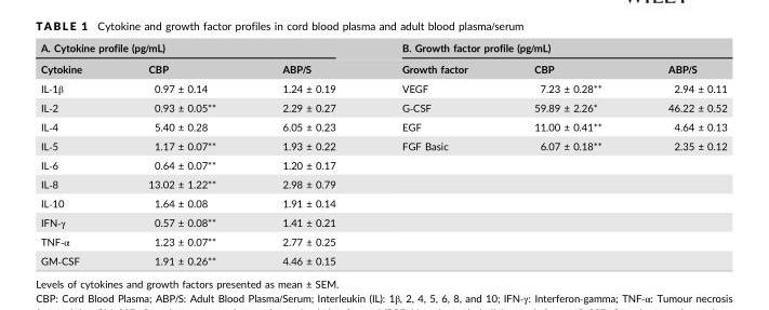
<table><thead><tr><td colspan="3">A. Cytokine profile (pg/mL)</td><td colspan="3">B. Growth factor profile (pg/mL)</td></tr><tr><td>Cytokine</td><td>CBP</td><td>ABP/S</td><td>Growth factor</td><td>CBP</td><td>ABP/S</td></tr></thead><tbody><tr><td>IL‐1β</td><td>0.97 ± 0.14</td><td>1.24 ± 0.19</td><td>VEGF</td><td>7.23 ± 0.28**</td><td>2.94 ± 0.11</td></tr><tr><td>IL‐2</td><td>0.93 ± 0.05**</td><td>2.29 ± 0.27</td><td>G‐CSF</td><td>59.89 ± 2.26*</td><td>46.22 ± 0.52</td></tr><tr><td>IL‐4</td><td>5.40 ± 0.28</td><td>6.05 ± 0.23</td><td>EGF</td><td>11.00 ± 0.41**</td><td>4.64 ± 0.13</td></tr><tr><td>IL‐5</td><td>1.17 ± 0.07**</td><td>1.93 ± 0.22</td><td>FGF Basic</td><td>6.07 ± 0.18**</td><td>2.35 ± 0.12</td></tr><tr><td>IL‐6</td><td>0.64 ± 0.07**</td><td>1.20 ± 0.17</td><td colspan="3"></td></tr><tr><td>IL‐8</td><td>13.02 ± 1.22**</td><td>2.98 ± 0.79</td><td colspan="3"></td></tr><tr><td>IL‐10</td><td>1.64 ± 0.08</td><td>1.91 ± 0.14</td><td colspan="3"></td></tr><tr><td>IFN‐γ</td><td>0.57 ± 0.08**</td><td>1.41 ± 0.21</td><td colspan="3"></td></tr><tr><td>TNF‐α</td><td>1.23 ± 0.07**</td><td>2.77 ± 0.25</td><td colspan="3"></td></tr><tr><td>GM‐CSF</td><td>1.91 ± 0.26**</td><td>4.46 ± 0.15</td><td colspan="3"></td></tr></tbody></table>